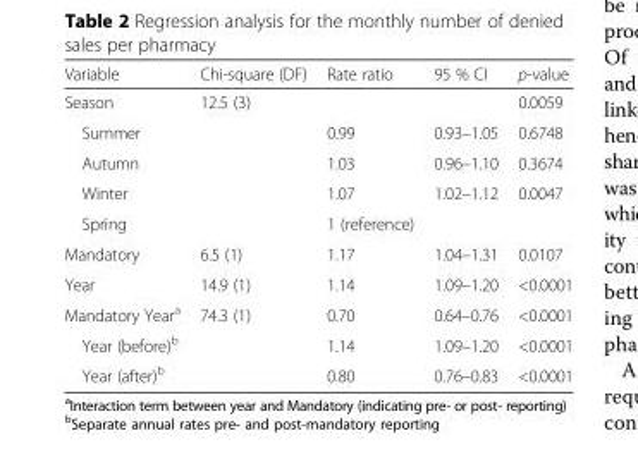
<table><thead><tr><td>Variable</td><td>Chi-square (DF)</td><td>Rate ratio</td><td>95 % CI</td><td>p-value</td></tr></thead><tbody><tr><td>Season</td><td>12.5 (3)</td><td></td><td></td><td>0.0059</td></tr><tr><td>Summer</td><td></td><td>0.99</td><td>0.93–1.05</td><td>0.6748</td></tr><tr><td>Autumn</td><td></td><td>1.03</td><td>0.96–1.10</td><td>0.3674</td></tr><tr><td>Winter</td><td></td><td>1.07</td><td>1.02–1.12</td><td>0.0047</td></tr><tr><td>Spring</td><td></td><td>1 (reference)</td><td></td><td></td></tr><tr><td>Mandatory</td><td>6.5 (1)</td><td>1.17</td><td>1.04–1.31</td><td>0.0107</td></tr><tr><td>Year</td><td>14.9 (1)</td><td>1.14</td><td>1.09–1.20</td><td>&lt;0.0001</td></tr><tr><td>Mandatory Year<sup>a</sup></td><td>74.3 (1)</td><td>0.70</td><td>0.64–0.76</td><td>&lt;0.0001</td></tr><tr><td>Year (before)<sup>b</sup></td><td></td><td>1.14</td><td>1.09–1.20</td><td>&lt;0.0001</td></tr><tr><td>Year (after)<sup>b</sup></td><td></td><td>0.80</td><td>0.76–0.83</td><td>&lt;0.0001</td></tr></tbody></table>